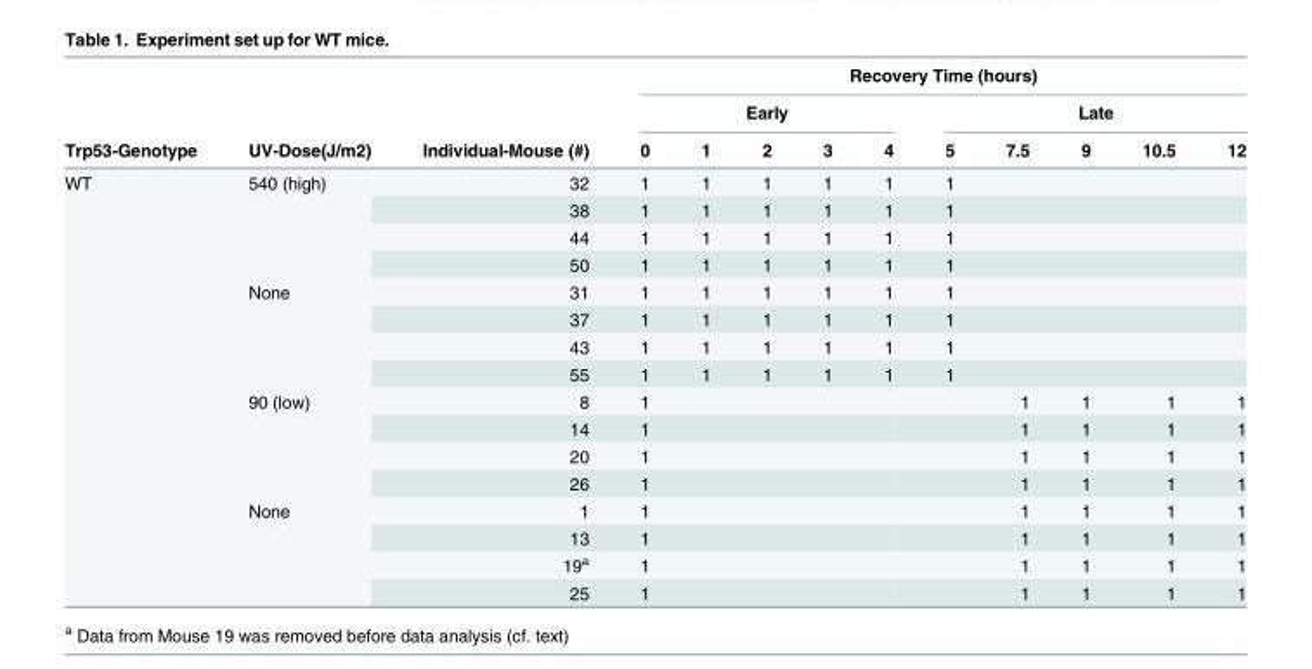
<table><thead><tr><td rowspan="3">Trp53-Genotype</td><td rowspan="3">UV-Dose(J/m2)</td><td rowspan="3">Individual-Mouse (#)</td><td colspan="10">Recovery Time (hours)</td></tr><tr><td colspan="5">Early</td><td colspan="5">Late</td></tr><tr><td>0</td><td>1</td><td>2</td><td>3</td><td>4</td><td>5</td><td>7.5</td><td>9</td><td>10.5</td><td>12</td></tr></thead><tbody><tr><td rowspan="16">WT</td><td rowspan="4">540 (high)</td><td>32</td><td>1</td><td>1</td><td>1</td><td>1</td><td>1</td><td>1</td><td></td><td></td><td></td><td></td></tr><tr><td>38</td><td>1</td><td>1</td><td>1</td><td>1</td><td>1</td><td>1</td><td></td><td></td><td></td><td></td></tr><tr><td>44</td><td>1</td><td>1</td><td>1</td><td>1</td><td>1</td><td>1</td><td></td><td></td><td></td><td></td></tr><tr><td>50</td><td>1</td><td>1</td><td>1</td><td>1</td><td>1</td><td>1</td><td></td><td></td><td></td><td></td></tr><tr><td rowspan="4">None</td><td>31</td><td>1</td><td>1</td><td>1</td><td>1</td><td>1</td><td>1</td><td></td><td></td><td></td><td></td></tr><tr><td>37</td><td>1</td><td>1</td><td>1</td><td>1</td><td>1</td><td>1</td><td></td><td></td><td></td><td></td></tr><tr><td>43</td><td>1</td><td>1</td><td>1</td><td>1</td><td>1</td><td>1</td><td></td><td></td><td></td><td></td></tr><tr><td>55</td><td>1</td><td>1</td><td>1</td><td>1</td><td>1</td><td>1</td><td></td><td></td><td></td><td></td></tr><tr><td rowspan="4">90 (low)</td><td>8</td><td>1</td><td></td><td></td><td></td><td></td><td></td><td>1</td><td>1</td><td>1</td><td>1</td></tr><tr><td>14</td><td>1</td><td></td><td></td><td></td><td></td><td></td><td>1</td><td>1</td><td>1</td><td>1</td></tr><tr><td>20</td><td>1</td><td></td><td></td><td></td><td></td><td></td><td>1</td><td>1</td><td>1</td><td>1</td></tr><tr><td>26</td><td>1</td><td></td><td></td><td></td><td></td><td></td><td>1</td><td>1</td><td>1</td><td>1</td></tr><tr><td rowspan="4">None</td><td>1</td><td>1</td><td></td><td></td><td></td><td></td><td></td><td>1</td><td>1</td><td>1</td><td>1</td></tr><tr><td>13</td><td>1</td><td></td><td></td><td></td><td></td><td></td><td>1</td><td>1</td><td>1</td><td>1</td></tr><tr><td>19<sup>a</sup></td><td>1</td><td></td><td></td><td></td><td></td><td></td><td>1</td><td>1</td><td>1</td><td>1</td></tr><tr><td>25</td><td>1</td><td></td><td></td><td></td><td></td><td></td><td>1</td><td>1</td><td>1</td><td>1</td></tr></tbody></table>